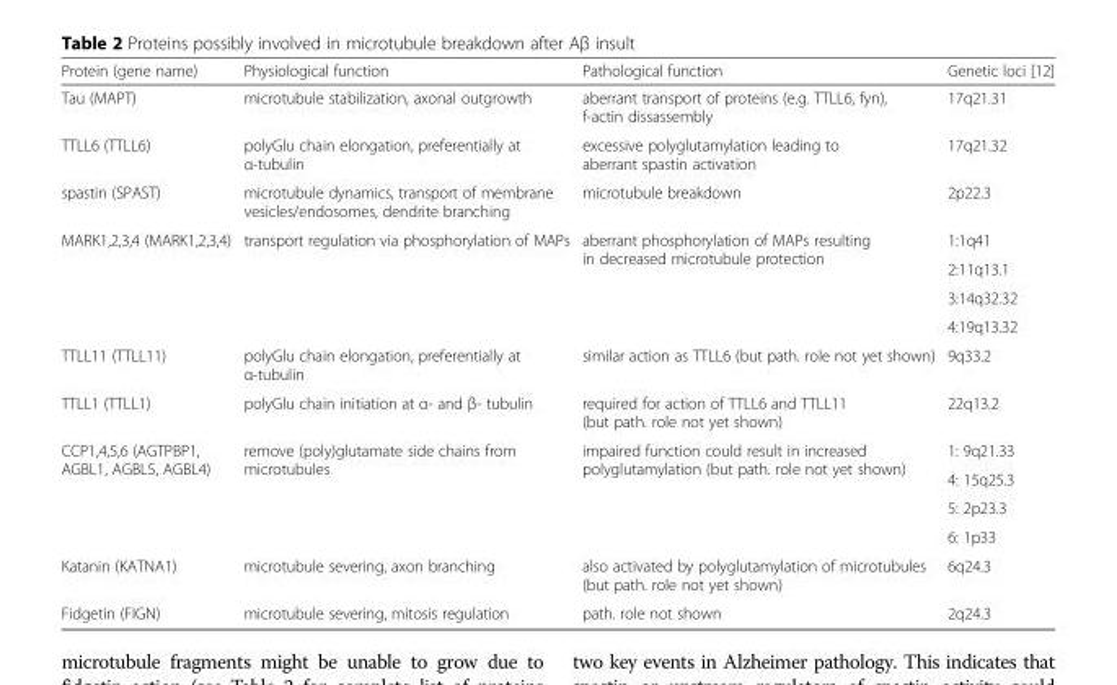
<table><thead><tr><td>Protein (gene name)</td><td>Physiological function</td><td>Pathological function</td><td>Genetic loci [12]</td></tr></thead><tbody><tr><td>Tau (MAPT)</td><td>microtubule stabilization, axonal outgrowth</td><td>aberrant transport of proteins (e.g. TTLL6, fyn), f-actin dissassembly</td><td>17q21.31</td></tr><tr><td>TTLL6 (TTLL6)</td><td>polyGlu chain elongation, preferentially at α-tubulin</td><td>excessive polyglutamylation leading to aberrant spastin activation</td><td>17q21.32</td></tr><tr><td>spastin (SPAST)</td><td>microtubule dynamics, transport of membrane vesicles/endosomes, dendrite branching</td><td>microtubule breakdown</td><td>2p22.3</td></tr><tr><td rowspan="4">MARK1,2,3,4 (MARK1,2,3,4)</td><td rowspan="4">transport regulation via phosphorylation of MAPs</td><td rowspan="4">aberrant phosphorylation of MAPs resulting in decreased microtubule protection</td><td>1:1q41</td></tr><tr><td>2:11q13.1</td></tr><tr><td>3:14q32.32</td></tr><tr><td>4:19q13.32</td></tr><tr><td>TTLL11 (TTLL11)</td><td>polyGlu chain elongation, preferentially at α-tubulin</td><td>similar action as TTLL6 (but path. role not yet shown)</td><td>9q33.2</td></tr><tr><td>TTLL1 (TTLL1)</td><td>polyGlu chain initiation at α- and β- tubulin</td><td>required for action of TTLL6 and TTLL11 (but path. role not yet shown)</td><td>22q13.2</td></tr><tr><td rowspan="4">CCP1,4,5,6 (AGTPBP1, AGBL1, AGBL5, AGBL4)</td><td rowspan="4">remove (poly)glutamate side chains from microtubules</td><td rowspan="4">impaired function could result in increased polyglutamylation (but path. role not yet shown)</td><td>1: 9q21.33</td></tr><tr><td>4: 15q25.3</td></tr><tr><td>5: 2p23.3</td></tr><tr><td>6: 1p33</td></tr><tr><td>Katanin (KATNA1)</td><td>microtubule severing, axon branching</td><td>also activated by polyglutamylation of microtubules (but path. role not yet shown)</td><td>6q24.3</td></tr><tr><td>Fidgetin (FIGN)</td><td>microtubule severing, mitosis regulation</td><td>path. role not shown</td><td>2q24.3</td></tr></tbody></table>